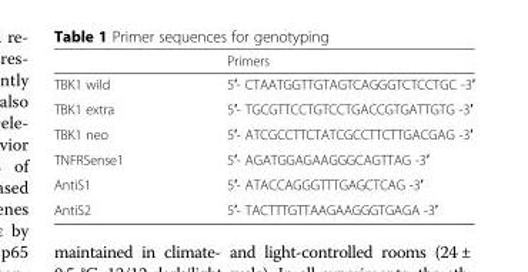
<table><thead><tr><td></td><td>Primers</td></tr></thead><tbody><tr><td>TBK1 wild</td><td>5′- CTAATGGTTGTAGTCAGGGTCTCCTGC -3′</td></tr><tr><td>TBK1 extra</td><td>5′- TGCGTTCCTGTCCTGACCGTGATTGTG -3′</td></tr><tr><td>TBK1 neo</td><td>5′- ATCGCCTTCTATCGCCTTCTTGACGAG -3′</td></tr><tr><td>TNFRSense1</td><td>5′- AGATGGAGAAGGGCAGTTAG -3′</td></tr><tr><td>AntiS1</td><td>5′- ATACCAGGGTTTGAGCTCAG -3′</td></tr><tr><td>AntiS2</td><td>5′- TACTTTGTTAAGAAGGGTGAGA -3′</td></tr></tbody></table>